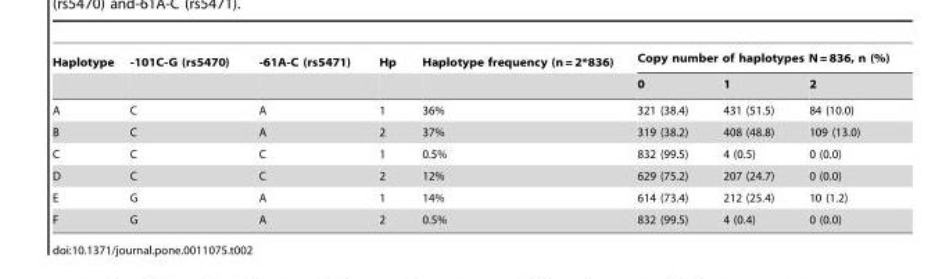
<table><thead><tr><td rowspan="2">Haplotype</td><td rowspan="2">-101C-G (rs5470)</td><td rowspan="2">-61A-C (rs5471)</td><td rowspan="2">Hp</td><td rowspan="2">Haplotype frequency (n = 2*836)</td><td colspan="3">Copy number of haplotypes N = 836, n (%)</td></tr><tr><td>0</td><td>1</td><td>2</td></tr></thead><tbody><tr><td>A</td><td>C</td><td>A</td><td>1</td><td>36%</td><td>321 (38.4)</td><td>431 (51.5)</td><td>84 (10.0)</td></tr><tr><td>B</td><td>C</td><td>A</td><td>2</td><td>37%</td><td>319 (38.2)</td><td>408 (48.8)</td><td>109 (13.0)</td></tr><tr><td>C</td><td>C</td><td>C</td><td>1</td><td>0.5%</td><td>832 (99.5)</td><td>4 (0.5)</td><td>0 (0.0)</td></tr><tr><td>D</td><td>C</td><td>C</td><td>2</td><td>12%</td><td>629 (75.2)</td><td>207 (24.7)</td><td>0 (0.0)</td></tr><tr><td>E</td><td>G</td><td>A</td><td>1</td><td>14%</td><td>614 (73.4)</td><td>212 (25.4)</td><td>10 (1.2)</td></tr><tr><td>F</td><td>G</td><td>A</td><td>2</td><td>0.5%</td><td>832 (99.5)</td><td>4 (0.4)</td><td>0 (0.0)</td></tr></tbody></table>